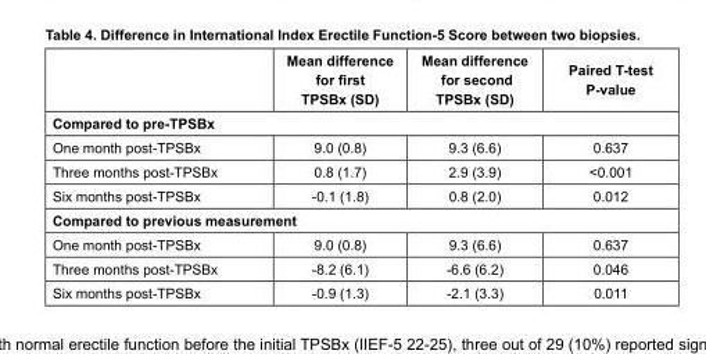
<table><thead><tr><td></td><td>Mean difference for first TPSBx (SD)</td><td>Mean difference for second TPSBx (SD)</td><td>Paired T-test P-value</td></tr></thead><tbody><tr><td colspan="4">Compared to pre-TPSBx</td></tr><tr><td>One month post-TPSBx</td><td>9.0 (0.8)</td><td>9.3 (6.6)</td><td>0.637</td></tr><tr><td>Three months post-TPSBx</td><td>0.8 (1.7)</td><td>2.9 (3.9)</td><td>&lt;0.001</td></tr><tr><td>Six months post-TPSBx</td><td>-0.1 (1.8)</td><td>0.8 (2.0)</td><td>0.012</td></tr><tr><td colspan="4">Compared to previous measurement</td></tr><tr><td>One month post-TPSBx</td><td>9.0 (0.8)</td><td>9.3 (6.6)</td><td>0.637</td></tr><tr><td>Three months post-TPSBx</td><td>-8.2 (6.1)</td><td>-6.6 (6.2)</td><td>0.046</td></tr><tr><td>Six months post-TPSBx</td><td>-0.9 (1.3)</td><td>-2.1 (3.3)</td><td>0.011</td></tr></tbody></table>